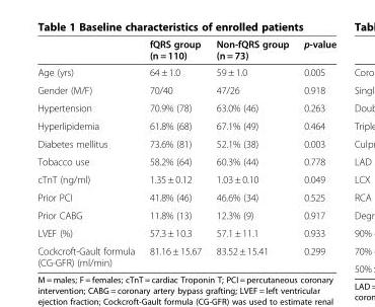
<table><thead><tr><td></td><td>fQRS group (n = 110)</td><td>Non-fQRS group (n = 73)</td><td>p-value</td></tr></thead><tbody><tr><td>Age (yrs)</td><td>64 ± 1.0</td><td>59 ± 1.0</td><td>0.005</td></tr><tr><td>Gender (M/F)</td><td>70/40</td><td>47/26</td><td>0.918</td></tr><tr><td>Hypertension</td><td>70.9% (78)</td><td>63.0% (46)</td><td>0.263</td></tr><tr><td>Hyperlipidemia</td><td>61.8% (68)</td><td>67.1% (49)</td><td>0.464</td></tr><tr><td>Diabetes mellitus</td><td>73.6% (81)</td><td>52.1% (38)</td><td>0.003</td></tr><tr><td>Tobacco use</td><td>58.2% (64)</td><td>60.3% (44)</td><td>0.778</td></tr><tr><td>cTnT (ng/ml)</td><td>1.35 ± 0.12</td><td>1.03 ± 0.10</td><td>0.049</td></tr><tr><td>Prior PCI</td><td>41.8% (46)</td><td>46.6% (34)</td><td>0.525</td></tr><tr><td>Prior CABG</td><td>11.8% (13)</td><td>12.3% (9)</td><td>0.917</td></tr><tr><td>LVEF (%)</td><td>57.3 ± 10.3</td><td>57.1 ± 11.1</td><td>0.933</td></tr><tr><td>Cockcroft-Gault formula (CG-GFR) (ml/min)</td><td>81.16 ± 15.67</td><td>83.52 ± 15.41</td><td>0.299</td></tr></tbody></table>